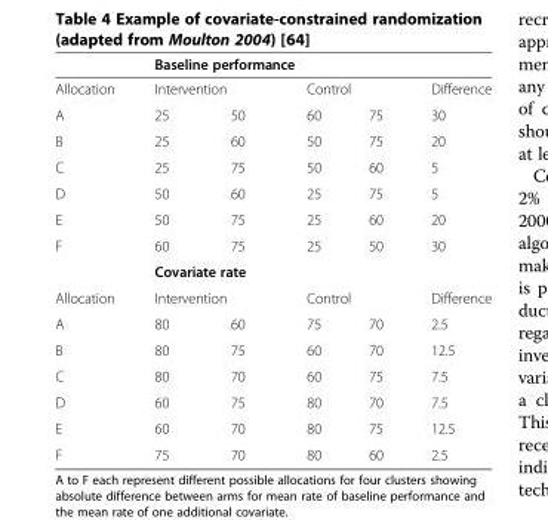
<table><thead><tr><td rowspan="3">Allocation A</td><td colspan="5">Baseline performance</td></tr><tr><td colspan="2">Intervention</td><td colspan="2">Control</td><td rowspan="2">Difference 30</td></tr><tr><td>25</td><td>50</td><td>60</td><td>75</td></tr></thead><tbody><tr><td>B</td><td>25</td><td>60</td><td>50</td><td>75</td><td>20</td></tr><tr><td>C</td><td>25</td><td>75</td><td>50</td><td>60</td><td>5</td></tr><tr><td>D</td><td>50</td><td>60</td><td>25</td><td>75</td><td>5</td></tr><tr><td>E</td><td>50</td><td>75</td><td>25</td><td>60</td><td>20</td></tr><tr><td rowspan="2">F</td><td>60</td><td>75</td><td>25</td><td>50</td><td>30</td></tr><tr><td colspan="5">Covariate rate</td></tr><tr><td>Allocation</td><td colspan="2">Intervention</td><td colspan="2">Control</td><td>Difference</td></tr><tr><td>A</td><td>80</td><td>60</td><td>75</td><td>70</td><td>2.5</td></tr><tr><td>B</td><td>80</td><td>75</td><td>60</td><td>70</td><td>12.5</td></tr><tr><td>C</td><td>80</td><td>70</td><td>60</td><td>75</td><td>7.5</td></tr><tr><td>D</td><td>60</td><td>75</td><td>80</td><td>70</td><td>7.5</td></tr><tr><td>E</td><td>60</td><td>70</td><td>80</td><td>75</td><td>12.5</td></tr><tr><td>F</td><td>75</td><td>70</td><td>80</td><td>60</td><td>2.5</td></tr></tbody></table>